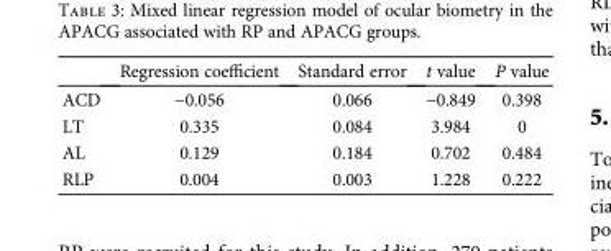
<table><thead><tr><td></td><td>Regression coefficient</td><td>Standard error</td><td>t value</td><td>P value</td></tr></thead><tbody><tr><td>ACD</td><td>−0.056</td><td>0.066</td><td>−0.849</td><td>0.398</td></tr><tr><td>LT</td><td>0.335</td><td>0.084</td><td>3.984</td><td>0</td></tr><tr><td>AL</td><td>0.129</td><td>0.184</td><td>0.702</td><td>0.484</td></tr><tr><td>RLP</td><td>0.004</td><td>0.003</td><td>1.228</td><td>0.222</td></tr></tbody></table>